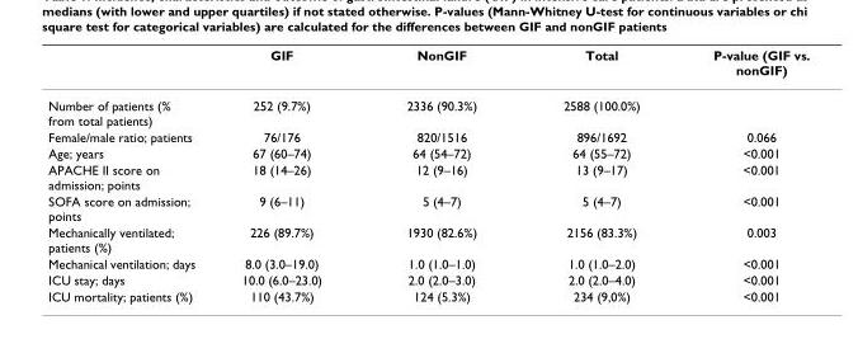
<table><thead><tr><td></td><td>GIF</td><td>NonGIF</td><td>Total</td><td>P-value (GIF vs. nonGIF)</td></tr></thead><tbody><tr><td>Number of patients (% from total patients)</td><td>252 (9.7%)</td><td>2336 (90.3%)</td><td>2588 (100.0%)</td><td></td></tr><tr><td>Female/male ratio; patients</td><td>76/176</td><td>820/1516</td><td>896/1692</td><td>0.066</td></tr><tr><td>Age; years</td><td>67 (60–74)</td><td>64 (54–72)</td><td>64 (55–72)</td><td>&lt;0.001</td></tr><tr><td>APACHE II score on admission; points</td><td>18 (14–26)</td><td>12 (9–16)</td><td>13 (9–17)</td><td>&lt;0.001</td></tr><tr><td>SOFA score on admission; points</td><td>9 (6–11)</td><td>5 (4–7)</td><td>5 (4–7)</td><td>&lt;0.001</td></tr><tr><td>Mechanically ventilated; patients (%)</td><td>226 (89.7%)</td><td>1930 (82.6%)</td><td>2156 (83.3%)</td><td>0.003</td></tr><tr><td>Mechanical ventilation; days</td><td>8.0 (3.0–19.0)</td><td>1.0 (1.0–1.0)</td><td>1.0 (1.0–2.0)</td><td>&lt;0.001</td></tr><tr><td>ICU stay; days</td><td>10.0 (6.0–23.0)</td><td>2.0 (2.0–3.0)</td><td>2.0 (2.0–4.0)</td><td>&lt;0.001</td></tr><tr><td>ICU mortality; patients (%)</td><td>110 (43.7%)</td><td>124 (5.3%)</td><td>234 (9,0%)</td><td>&lt;0.001</td></tr></tbody></table>